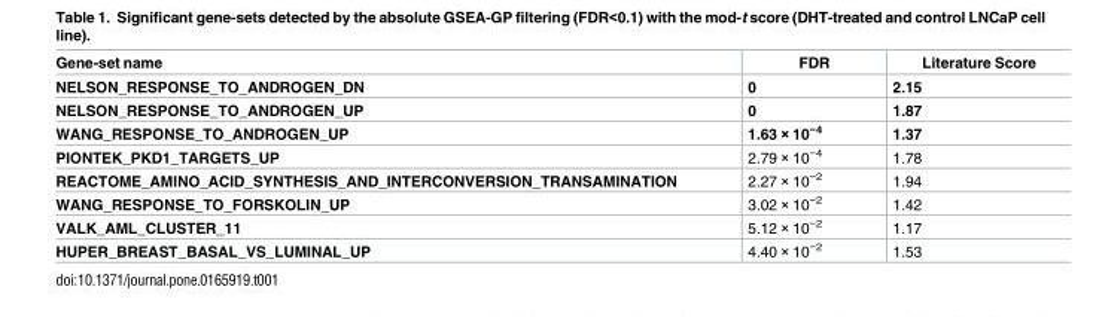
<table><thead><tr><td>Gene-set name</td><td>FDR</td><td>Literature Score</td></tr></thead><tbody><tr><td>NELSON_RESPONSE_TO_ANDROGEN_DN</td><td>0</td><td>2.15</td></tr><tr><td>NELSON_RESPONSE_TO_ANDROGEN_UP</td><td>0</td><td>1.87</td></tr><tr><td>WANG_RESPONSE_TO_ANDROGEN_UP</td><td>1.63 × 10<sup>−4</sup></td><td>1.37</td></tr><tr><td>PIONTEK_PKD1_TARGETS_UP</td><td>2.79 × 10<sup>−4</sup></td><td>1.78</td></tr><tr><td>REACTOME_AMINO_ACID_SYNTHESIS_AND_INTERCONVERSION_TRANSAMINATION</td><td>2.27 × 10<sup>−2</sup></td><td>1.94</td></tr><tr><td>WANG_RESPONSE_TO_FORSKOLIN_UP</td><td>3.02 × 10<sup>−2</sup></td><td>1.42</td></tr><tr><td>VALK_AML_CLUSTER_11</td><td>5.12 × 10<sup>−2</sup></td><td>1.17</td></tr><tr><td>HUPER_BREAST_BASAL_VS_LUMINAL_UP</td><td>4.40 × 10<sup>−2</sup></td><td>1.53</td></tr></tbody></table>